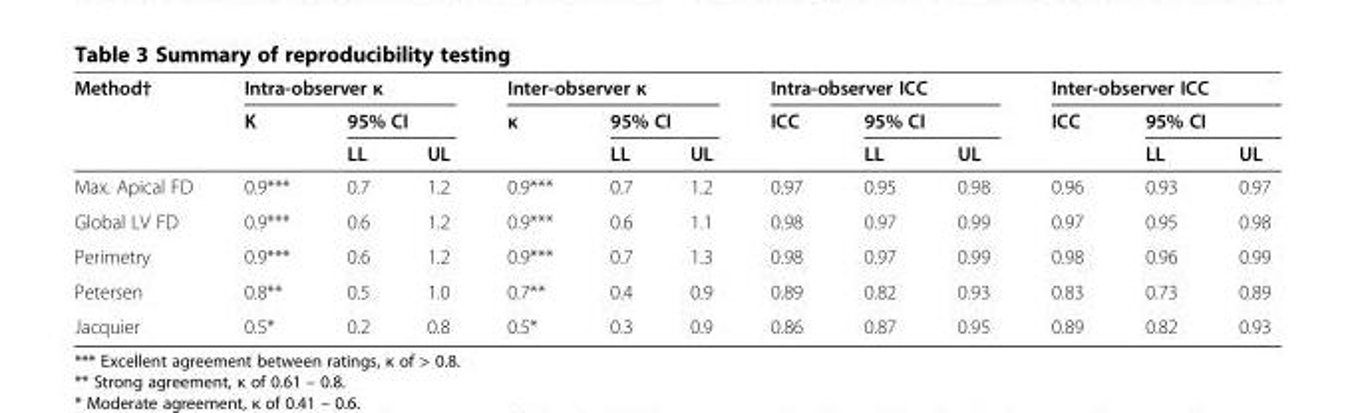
<table><thead><tr><td rowspan="3">Method†</td><td colspan="3">Intra-observer κ</td><td colspan="3">Inter-observer κ</td><td colspan="3">Intra-observer ICC</td><td colspan="3">Inter-observer ICC</td></tr><tr><td rowspan="2">Κ</td><td colspan="2">95% CI</td><td rowspan="2">κ</td><td colspan="2">95% CI</td><td rowspan="2">ICC</td><td colspan="2">95% CI</td><td rowspan="2">ICC</td><td colspan="2">95% CI</td></tr><tr><td>LL</td><td>UL</td><td>LL</td><td>UL</td><td>LL</td><td>UL</td><td>LL</td><td>UL</td></tr></thead><tbody><tr><td>Max. Apical FD</td><td>0.9***</td><td>0.7</td><td>1.2</td><td>0.9***</td><td>0.7</td><td>1.2</td><td>0.97</td><td>0.95</td><td>0.98</td><td>0.96</td><td>0.93</td><td>0.97</td></tr><tr><td>Global LV FD</td><td>0.9***</td><td>0.6</td><td>1.2</td><td>0.9***</td><td>0.6</td><td>1.1</td><td>0.98</td><td>0.97</td><td>0.99</td><td>0.97</td><td>0.95</td><td>0.98</td></tr><tr><td>Perimetry</td><td>0.9***</td><td>0.6</td><td>1.2</td><td>0.9***</td><td>0.7</td><td>1.3</td><td>0.98</td><td>0.97</td><td>0.99</td><td>0.98</td><td>0.96</td><td>0.99</td></tr><tr><td>Petersen</td><td>0.8**</td><td>0.5</td><td>1.0</td><td>0.7**</td><td>0.4</td><td>0.9</td><td>0.89</td><td>0.82</td><td>0.93</td><td>0.83</td><td>0.73</td><td>0.89</td></tr><tr><td>Jacquier</td><td>0.5*</td><td>0.2</td><td>0.8</td><td>0.5*</td><td>0.3</td><td>0.9</td><td>0.86</td><td>0.87</td><td>0.95</td><td>0.89</td><td>0.82</td><td>0.93</td></tr></tbody></table>